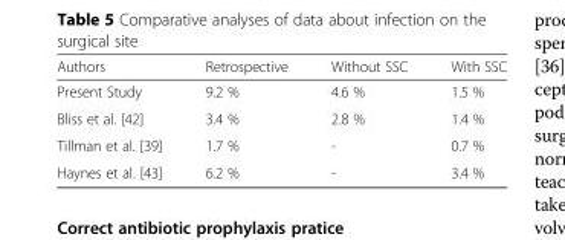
<table><thead><tr><td>Authors</td><td>Retrospective</td><td>Without SSC</td><td>With SSC</td></tr></thead><tbody><tr><td>Present Study</td><td>9.2 %</td><td>4.6 %</td><td>1.5 %</td></tr><tr><td>Bliss et al. [42]</td><td>3.4 %</td><td>2.8 %</td><td>1.4 %</td></tr><tr><td>Tillman et al. [39]</td><td>1.7 %</td><td>-</td><td>0.7 %</td></tr><tr><td>Haynes et al. [43]</td><td>6.2 %</td><td>-</td><td>3.4 %</td></tr></tbody></table>